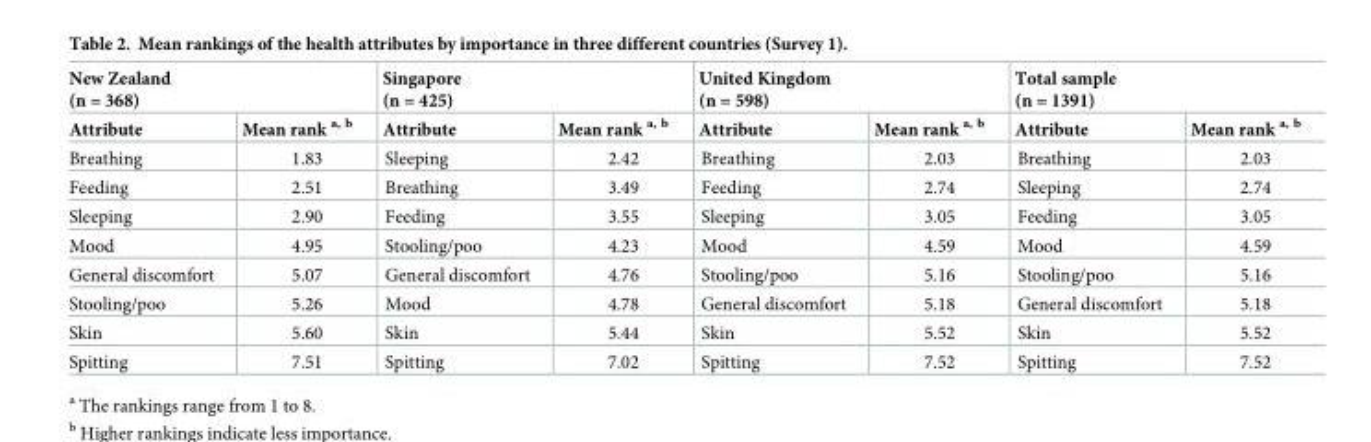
<table><thead><tr><td colspan="2">New Zealand (n = 368)</td><td colspan="2">Singapore (n = 425)</td><td colspan="2">United Kingdom (n = 598)</td><td colspan="2">Total sample (n = 1391)</td></tr><tr><td>Attribute</td><td>Mean rank <sup>a, b</sup></td><td>Attribute</td><td>Mean rank <sup>a, b</sup></td><td>Attribute</td><td>Mean rank <sup>a, b</sup></td><td>Attribute</td><td>Mean rank <sup>a, b</sup></td></tr></thead><tbody><tr><td>Breathing</td><td>1.83</td><td>Sleeping</td><td>2.42</td><td>Breathing</td><td>2.03</td><td>Breathing</td><td>2.03</td></tr><tr><td>Feeding</td><td>2.51</td><td>Breathing</td><td>3.49</td><td>Feeding</td><td>2.74</td><td>Sleeping</td><td>2.74</td></tr><tr><td>Sleeping</td><td>2.90</td><td>Feeding</td><td>3.55</td><td>Sleeping</td><td>3.05</td><td>Feeding</td><td>3.05</td></tr><tr><td>Mood</td><td>4.95</td><td>Stooling/poo</td><td>4.23</td><td>Mood</td><td>4.59</td><td>Mood</td><td>4.59</td></tr><tr><td>General discomfort</td><td>5.07</td><td>General discomfort</td><td>4.76</td><td>Stooling/poo</td><td>5.16</td><td>Stooling/poo</td><td>5.16</td></tr><tr><td>Stooling/poo</td><td>5.26</td><td>Mood</td><td>4.78</td><td>General discomfort</td><td>5.18</td><td>General discomfort</td><td>5.18</td></tr><tr><td>Skin</td><td>5.60</td><td>Skin</td><td>5.44</td><td>Skin</td><td>5.52</td><td>Skin</td><td>5.52</td></tr><tr><td>Spitting</td><td>7.51</td><td>Spitting</td><td>7.02</td><td>Spitting</td><td>7.52</td><td>Spitting</td><td>7.52</td></tr></tbody></table>